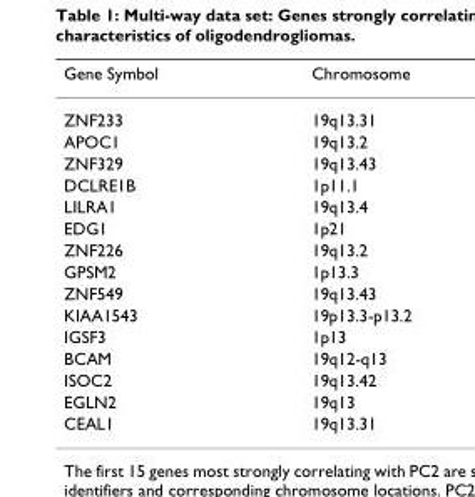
<table><thead><tr><td>Gene Symbol</td><td>Chromosome</td></tr></thead><tbody><tr><td>ZNF233</td><td>19q13.31</td></tr><tr><td>APOC1</td><td>19q13.2</td></tr><tr><td>ZNF329</td><td>19q13.43</td></tr><tr><td>DCLRE1B</td><td>1p11.1</td></tr><tr><td>LILRA1</td><td>19q13.4</td></tr><tr><td>EDG1</td><td>1p21</td></tr><tr><td>ZNF226</td><td>19q13.2</td></tr><tr><td>GPSM2</td><td>1p13.3</td></tr><tr><td>ZNF549</td><td>19q13.43</td></tr><tr><td>KIAA1543</td><td>19p13.3-p13.2</td></tr><tr><td>IGSF3</td><td>1p13</td></tr><tr><td>BCAM</td><td>19q12-q13</td></tr><tr><td>ISOC2</td><td>19q13.42</td></tr><tr><td>EGLN2</td><td>19q13</td></tr><tr><td>CEAL1</td><td>19q13.31</td></tr></tbody></table>